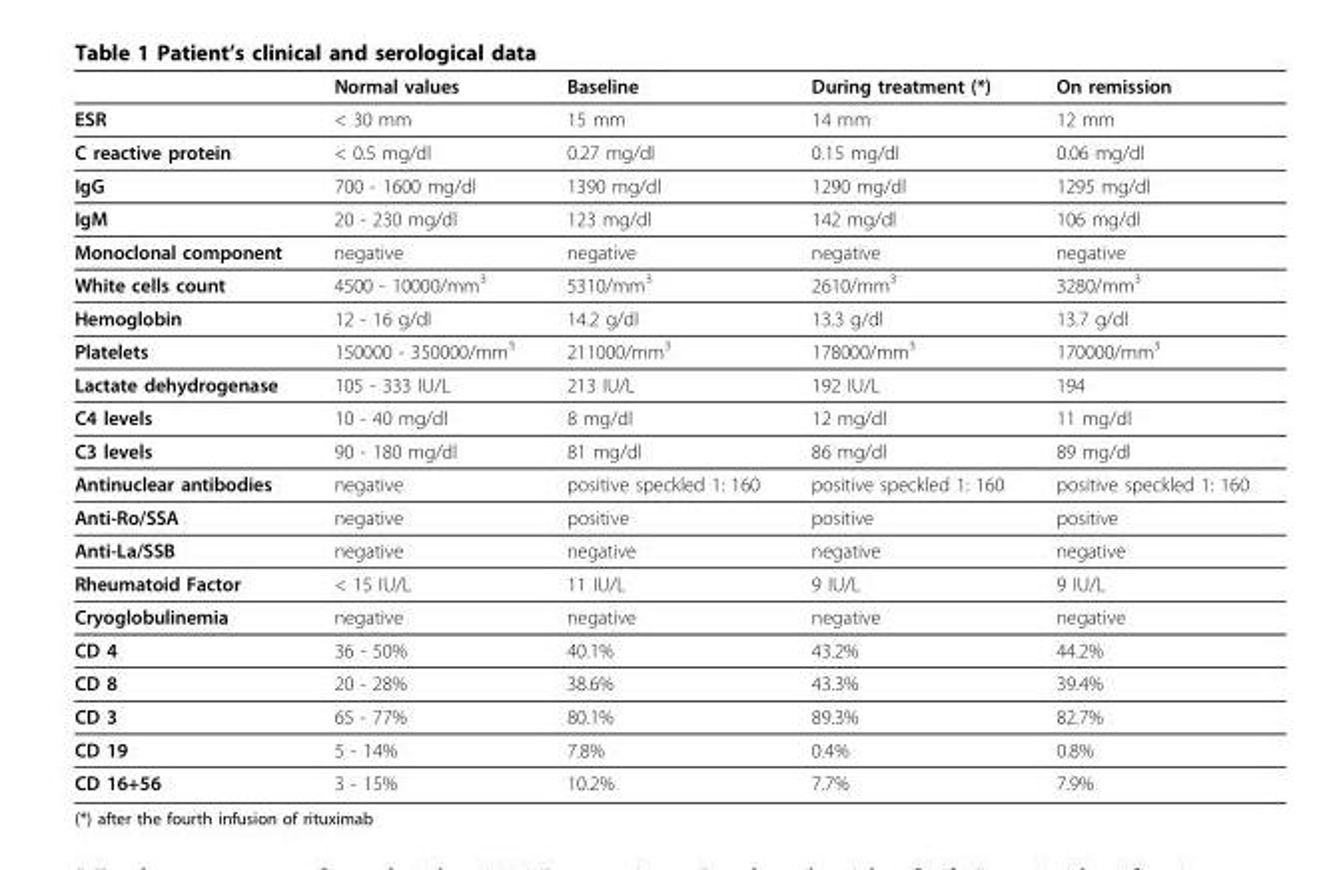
<table><thead><tr><td></td><td>Normal values</td><td>Baseline</td><td>During treatment (*)</td><td>On remission</td></tr></thead><tbody><tr><td>ESR</td><td>&lt; 30 mm</td><td>15 mm</td><td>14 mm</td><td>12 mm</td></tr><tr><td>C reactive protein</td><td>&lt; 0.5 mg/dl</td><td>0.27 mg/dl</td><td>0.15 mg/dl</td><td>0.06 mg/dl</td></tr><tr><td>IgG</td><td>700 - 1600 mg/dl</td><td>1390 mg/dl</td><td>1290 mg/dl</td><td>1295 mg/dl</td></tr><tr><td>IgM</td><td>20 - 230 mg/dl</td><td>123 mg/dl</td><td>142 mg/dl</td><td>106 mg/dl</td></tr><tr><td>Monoclonal component</td><td>negative</td><td>negative</td><td>negative</td><td>negative</td></tr><tr><td>White cells count</td><td>4500 - 10000/mm<sup>3</sup></td><td>5310/mm<sup>3</sup></td><td>2610/mm<sup>3</sup></td><td>3280/mm<sup>3</sup></td></tr><tr><td>Hemoglobin</td><td>12 - 16 g/dl</td><td>14.2 g/dl</td><td>13.3 g/dl</td><td>13.7 g/dl</td></tr><tr><td>Platelets</td><td>150000 - 350000/mm<sup>3</sup></td><td>211000/mm<sup>3</sup></td><td>178000/mm<sup>3</sup></td><td>170000/mm<sup>3</sup></td></tr><tr><td>Lactate dehydrogenase</td><td>105 - 333 IU/L</td><td>213 IU/L</td><td>192 IU/L</td><td>194</td></tr><tr><td>C4 levels</td><td>10 - 40 mg/dl</td><td>8 mg/dl</td><td>12 mg/dl</td><td>11 mg/dl</td></tr><tr><td>C3 levels</td><td>90 - 180 mg/dl</td><td>81 mg/dl</td><td>86 mg/dl</td><td>89 mg/dl</td></tr><tr><td>Antinuclear antibodies</td><td>negative</td><td>positive speckled 1: 160</td><td>positive speckled 1: 160</td><td>positive speckled 1: 160</td></tr><tr><td>Anti-Ro/SSA</td><td>negative</td><td>positive</td><td>positive</td><td>positive</td></tr><tr><td>Anti-La/SSB</td><td>negative</td><td>negative</td><td>negative</td><td>negative</td></tr><tr><td>Rheumatoid Factor</td><td>&lt; 15 IU/L</td><td>11 IU/L</td><td>9 IU/L</td><td>9 IU/L</td></tr><tr><td>Cryoglobulinemia</td><td>negative</td><td>negative</td><td>negative</td><td>negative</td></tr><tr><td>CD 4</td><td>36 - 50%</td><td>40.1%</td><td>43.2%</td><td>44.2%</td></tr><tr><td>CD 8</td><td>20 - 28%</td><td>38.6%</td><td>43.3%</td><td>39.4%</td></tr><tr><td>CD 3</td><td>65 - 77%</td><td>80.1%</td><td>89.3%</td><td>82.7%</td></tr><tr><td>CD 19</td><td>5 - 14%</td><td>7.8%</td><td>0.4%</td><td>0.8%</td></tr><tr><td>CD 16+56</td><td>3 - 15%</td><td>10.2%</td><td>7.7%</td><td>7.9%</td></tr></tbody></table>